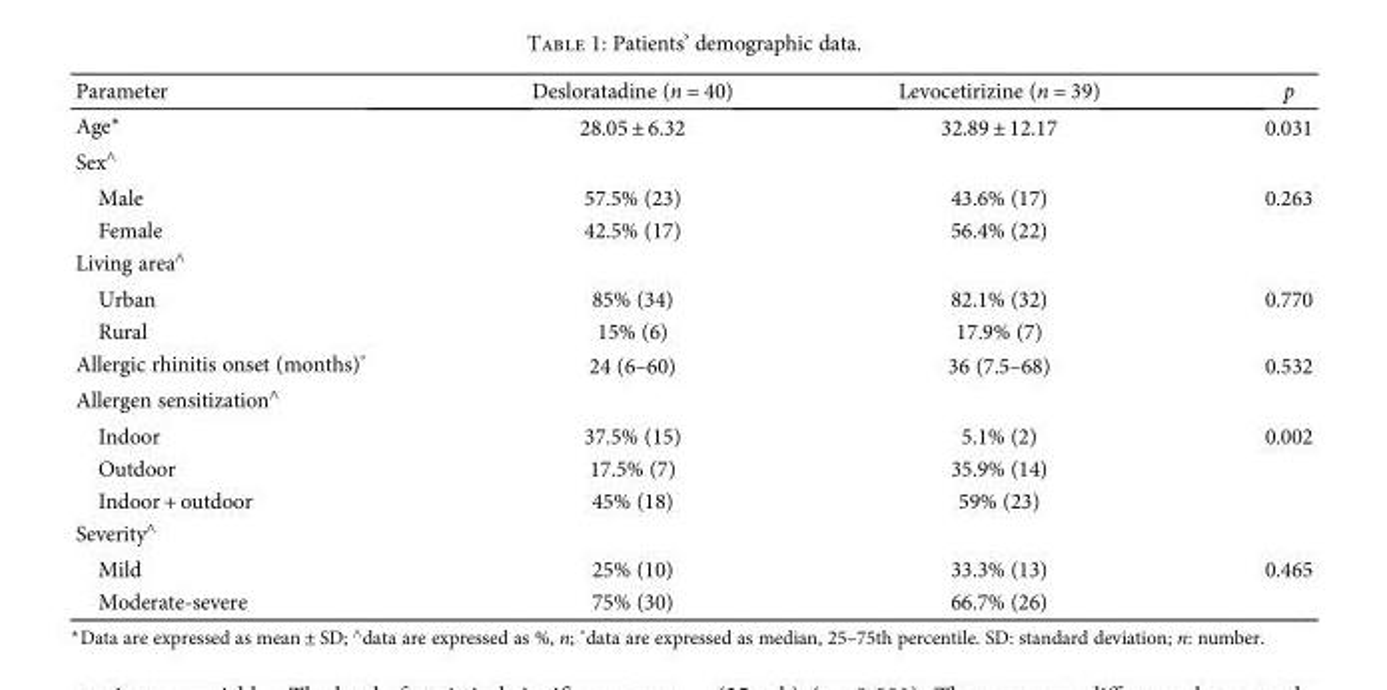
<table><thead><tr><td>Parameter</td><td>Desloratadine (n = 40)</td><td>Levocetirizine (n = 39)</td><td>p</td></tr></thead><tbody><tr><td>Age∗</td><td>28.05 ± 6.32</td><td>32.89 ± 12.17</td><td>0.031</td></tr><tr><td colspan="4">Sex<sup>∧</sup></td></tr><tr><td>Male</td><td>57.5% (23)</td><td>43.6% (17)</td><td>0.263</td></tr><tr><td>Female</td><td>42.5% (17)</td><td>56.4% (22)</td><td></td></tr><tr><td colspan="4">Living area<sup>∧</sup></td></tr><tr><td>Urban</td><td>85% (34)</td><td>82.1% (32)</td><td>0.770</td></tr><tr><td>Rural</td><td>15% (6)</td><td>17.9% (7)</td><td></td></tr><tr><td>Allergic rhinitis onset (months)°</td><td>24 (6–60)</td><td>36 (7.5–68)</td><td>0.532</td></tr><tr><td colspan="4">Allergen sensitization<sup>∧</sup></td></tr><tr><td>Indoor</td><td>37.5% (15)</td><td>5.1% (2)</td><td>0.002</td></tr><tr><td>Outdoor</td><td>17.5% (7)</td><td>35.9% (14)</td><td></td></tr><tr><td>Indoor + outdoor</td><td>45% (18)</td><td>59% (23)</td><td></td></tr><tr><td colspan="4">Severity<sup>∧</sup></td></tr><tr><td>Mild</td><td>25% (10)</td><td>33.3% (13)</td><td>0.465</td></tr><tr><td>Moderate-severe</td><td>75% (30)</td><td>66.7% (26)</td><td></td></tr></tbody></table>